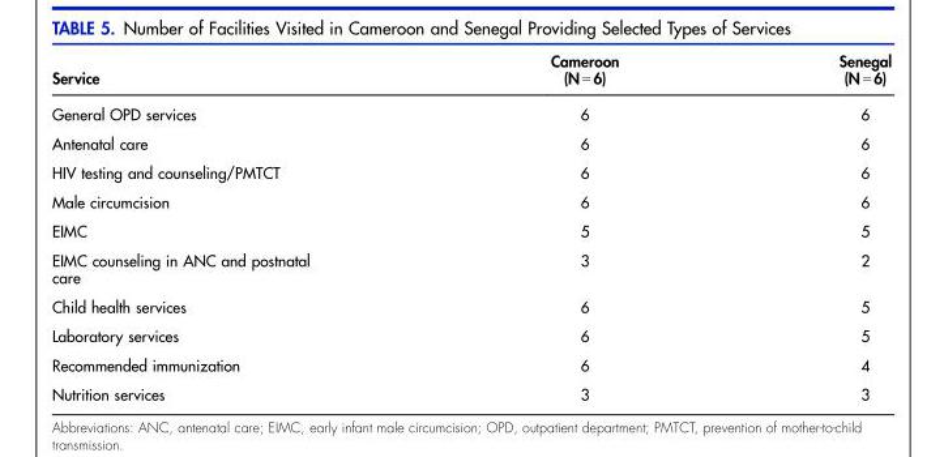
<table><thead><tr><td>Service</td><td>Cameroon (N = 6)</td><td>Senegal (N = 6)</td></tr></thead><tbody><tr><td>General OPD services</td><td>6</td><td>6</td></tr><tr><td>Antenatal care</td><td>6</td><td>6</td></tr><tr><td>HIV testing and counseling/PMTCT</td><td>6</td><td>6</td></tr><tr><td>Male circumcision</td><td>6</td><td>6</td></tr><tr><td>EIMC</td><td>5</td><td>5</td></tr><tr><td>EIMC counseling in ANC and postnatal care</td><td>3</td><td>2</td></tr><tr><td>Child health services</td><td>6</td><td>5</td></tr><tr><td>Laboratory services</td><td>6</td><td>5</td></tr><tr><td>Recommended immunization</td><td>6</td><td>4</td></tr><tr><td>Nutrition services</td><td>3</td><td>3</td></tr></tbody></table>